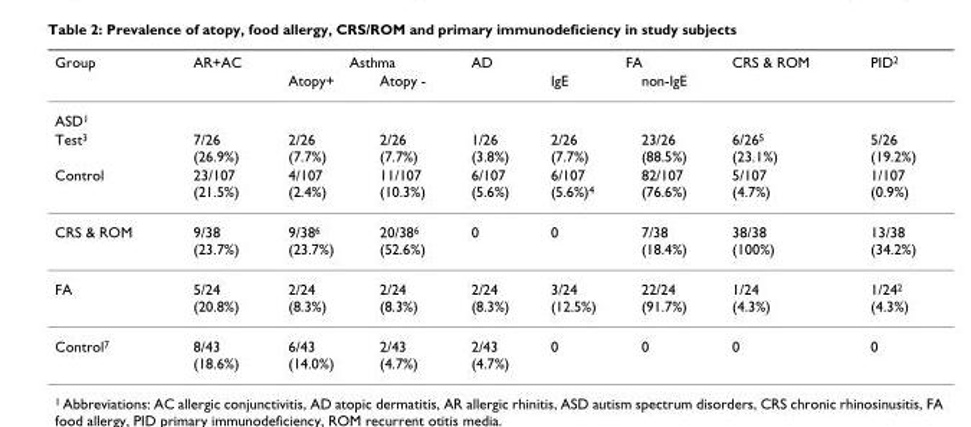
<table><thead><tr><td rowspan="2">Group</td><td rowspan="2">AR+AC</td><td colspan="2">Asthma</td><td rowspan="2">AD</td><td colspan="2">FA</td><td rowspan="2">CRS &amp; ROM</td><td rowspan="2">PID<sup>2</sup></td></tr><tr><td>Atopy+</td><td>Atopy -</td><td>IgE</td><td>non-IgE</td></tr></thead><tbody><tr><td colspan="9">ASD<sup>1</sup></td></tr><tr><td>Test<sup>3</sup></td><td>7/26 (26.9%)</td><td>2/26 (7.7%)</td><td>2/26 (7.7%)</td><td>1/26 (3.8%)</td><td>2/26 (7.7%)</td><td>23/26 (88.5%)</td><td>6/26<sup>5</sup> (23.1%)</td><td>5/26 (19.2%)</td></tr><tr><td>Control</td><td>23/107 (21.5%)</td><td>4/107 (2.4%)</td><td>11/107 (10.3%)</td><td>6/107 (5.6%)</td><td>6/107 (5.6%)<sup>4</sup></td><td>82/107 (76.6%)</td><td>5/107 (4.7%)</td><td>1/107 (0.9%)</td></tr><tr><td>CRS &amp; ROM</td><td>9/38 (23.7%)</td><td>9/38<sup>6</sup> (23.7%)</td><td>20/38<sup>6</sup> (52.6%)</td><td>0</td><td>0</td><td>7/38 (18.4%)</td><td>38/38 (100%)</td><td>13/38 (34.2%)</td></tr><tr><td>FA</td><td>5/24 (20.8%)</td><td>2/24 (8.3%)</td><td>2/24 (8.3%)</td><td>2/24 (8.3%)</td><td>3/24 (12.5%)</td><td>22/24 (91.7%)</td><td>1/24 (4.3%)</td><td>1/24<sup>2</sup> (4.3%)</td></tr><tr><td>Control<sup>7</sup></td><td>8/43 (18.6%)</td><td>6/43 (14.0%)</td><td>2/43 (4.7%)</td><td>2/43 (4.7%)</td><td>0</td><td>0</td><td>0</td><td>0</td></tr></tbody></table>